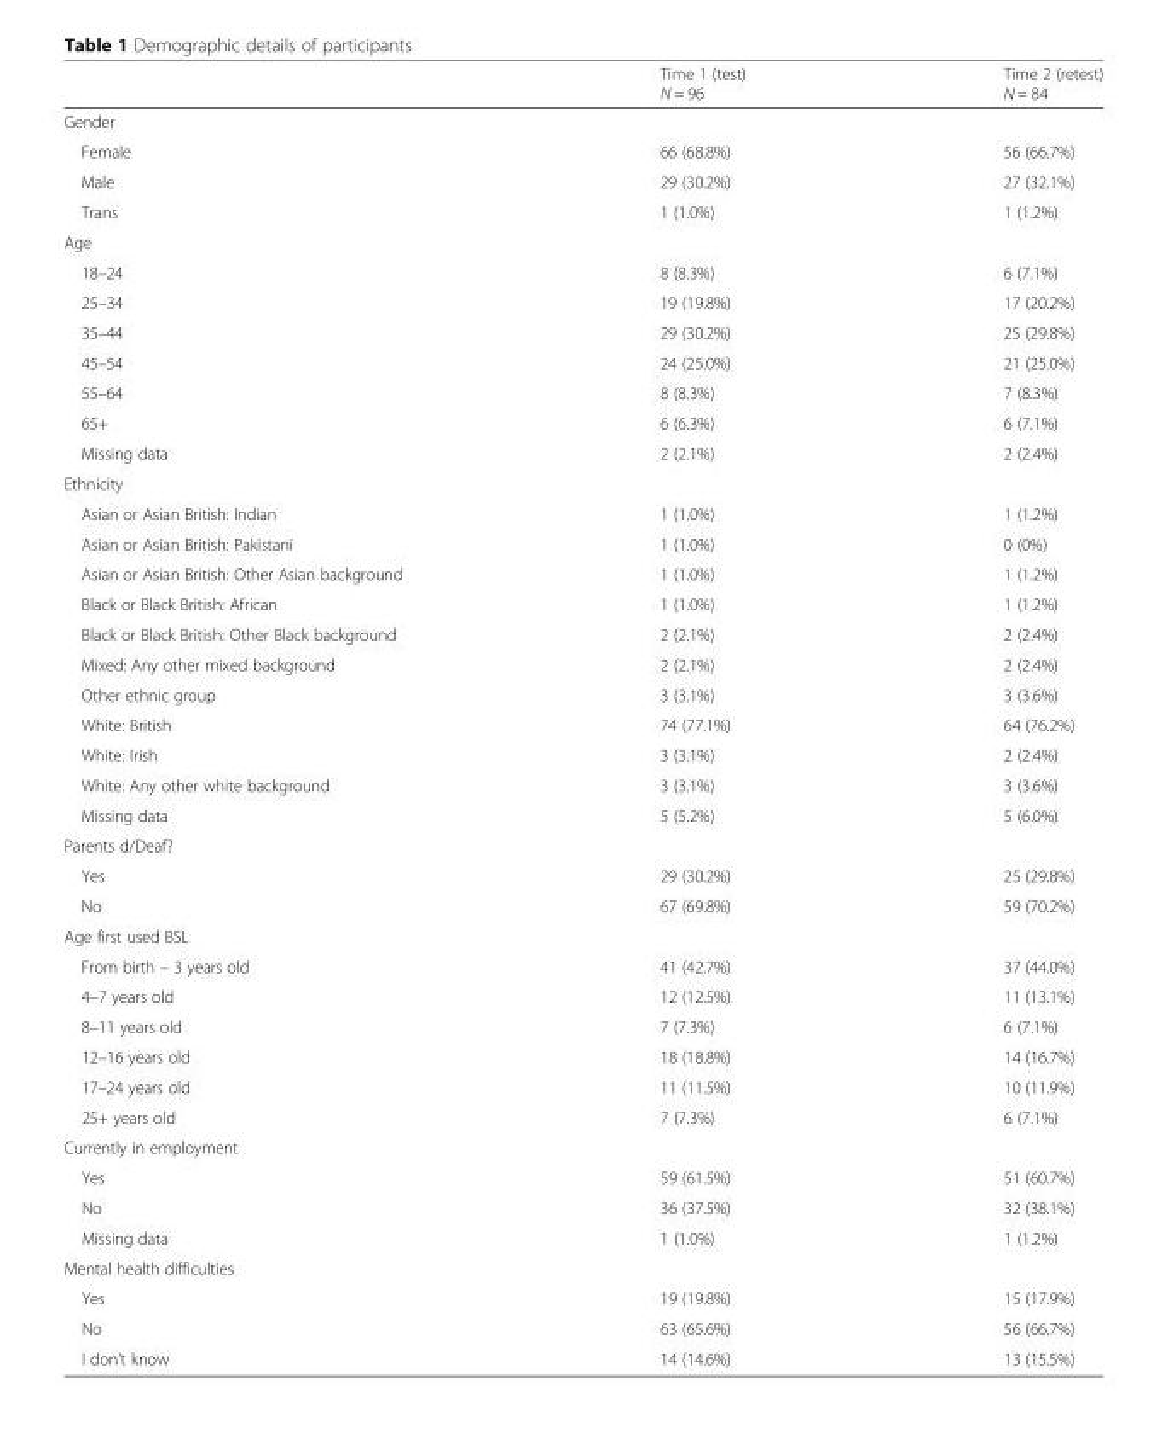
<table><thead><tr><td></td><td>Time 1 (test) N = 96</td><td>Time 2 (retest) N = 84</td></tr></thead><tbody><tr><td colspan="3">Gender</td></tr><tr><td>Female</td><td>66 (68.8%)</td><td>56 (66.7%)</td></tr><tr><td>Male</td><td>29 (30.2%)</td><td>27 (32.1%)</td></tr><tr><td>Trans</td><td>1 (1.0%)</td><td>1 (1.2%)</td></tr><tr><td colspan="3">Age</td></tr><tr><td>18–24</td><td>8 (8.3%)</td><td>6 (7.1%)</td></tr><tr><td>25–34</td><td>19 (19.8%)</td><td>17 (20.2%)</td></tr><tr><td>35–44</td><td>29 (30.2%)</td><td>25 (29.8%)</td></tr><tr><td>45–54</td><td>24 (25.0%)</td><td>21 (25.0%)</td></tr><tr><td>55–64</td><td>8 (8.3%)</td><td>7 (8.3%)</td></tr><tr><td>65+</td><td>6 (6.3%)</td><td>6 (7.1%)</td></tr><tr><td>Missing data</td><td>2 (2.1%)</td><td>2 (2.4%)</td></tr><tr><td colspan="3">Ethnicity</td></tr><tr><td>Asian or Asian British: Indian</td><td>1 (1.0%)</td><td>1 (1.2%)</td></tr><tr><td>Asian or Asian British: Pakistani</td><td>1 (1.0%)</td><td>0 (0%)</td></tr><tr><td>Asian or Asian British: Other Asian background</td><td>1 (1.0%)</td><td>1 (1.2%)</td></tr><tr><td>Black or Black British: African</td><td>1 (1.0%)</td><td>1 (1.2%)</td></tr><tr><td>Black or Black British: Other Black background</td><td>2 (2.1%)</td><td>2 (2.4%)</td></tr><tr><td>Mixed: Any other mixed background</td><td>2 (2.1%)</td><td>2 (2.4%)</td></tr><tr><td>Other ethnic group</td><td>3 (3.1%)</td><td>3 (3.6%)</td></tr><tr><td>White: British</td><td>74 (77.1%)</td><td>64 (76.2%)</td></tr><tr><td>White: Irish</td><td>3 (3.1%)</td><td>2 (2.4%)</td></tr><tr><td>White: Any other white background</td><td>3 (3.1%)</td><td>3 (3.6%)</td></tr><tr><td>Missing data</td><td>5 (5.2%)</td><td>5 (6.0%)</td></tr><tr><td colspan="3">Parents d/Deaf?</td></tr><tr><td>Yes</td><td>29 (30.2%)</td><td>25 (29.8%)</td></tr><tr><td>No</td><td>67 (69.8%)</td><td>59 (70.2%)</td></tr><tr><td colspan="3">Age first used BSL</td></tr><tr><td>From birth – 3 years old</td><td>41 (42.7%)</td><td>37 (44.0%)</td></tr><tr><td>4–7 years old</td><td>12 (12.5%)</td><td>11 (13.1%)</td></tr><tr><td>8–11 years old</td><td>7 (7.3%)</td><td>6 (7.1%)</td></tr><tr><td>12–16 years old</td><td>18 (18.8%)</td><td>14 (16.7%)</td></tr><tr><td>17–24 years old</td><td>11 (11.5%)</td><td>10 (11.9%)</td></tr><tr><td>25+ years old</td><td>7 (7.3%)</td><td>6 (7.1%)</td></tr><tr><td colspan="3">Currently in employment</td></tr><tr><td>Yes</td><td>59 (61.5%)</td><td>51 (60.7%)</td></tr><tr><td>No</td><td>36 (37.5%)</td><td>32 (38.1%)</td></tr><tr><td>Missing data</td><td>1 (1.0%)</td><td>1 (1.2%)</td></tr><tr><td colspan="3">Mental health difficulties</td></tr><tr><td>Yes</td><td>19 (19.8%)</td><td>15 (17.9%)</td></tr><tr><td>No</td><td>63 (65.6%)</td><td>56 (66.7%)</td></tr><tr><td>I don’t know</td><td>14 (14.6%)</td><td>13 (15.5%)</td></tr></tbody></table>